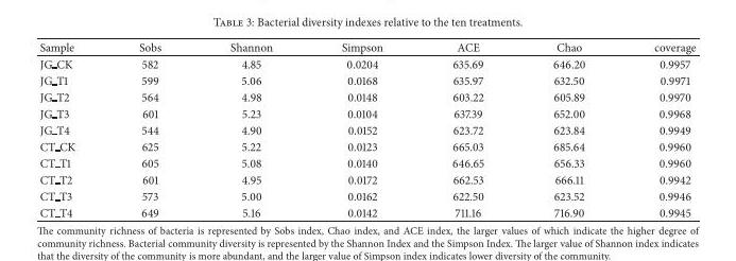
<table><thead><tr><td>Sample</td><td>Sobs</td><td>Shannon</td><td>Simpson</td><td>ACE</td><td>Chao</td><td>coverage</td></tr></thead><tbody><tr><td>JG CK</td><td>582</td><td>4.85</td><td>0.0204</td><td>635.69</td><td>646.20</td><td>0.9957</td></tr><tr><td>JG T1</td><td>599</td><td>5.06</td><td>0.0168</td><td>635.97</td><td>632.50</td><td>0.9971</td></tr><tr><td>JG T2</td><td>564</td><td>4.98</td><td>0.0148</td><td>603.22</td><td>605.89</td><td>0.9970</td></tr><tr><td>JG T3</td><td>601</td><td>5.23</td><td>0.0104</td><td>637.39</td><td>652.00</td><td>0.9968</td></tr><tr><td>JG T4</td><td>544</td><td>4.90</td><td>0.0152</td><td>623.72</td><td>623.84</td><td>0.9949</td></tr><tr><td>CT CK</td><td>625</td><td>5.22</td><td>0.0123</td><td>665.03</td><td>685.64</td><td>0.9960</td></tr><tr><td>CT T1</td><td>605</td><td>5.08</td><td>0.0140</td><td>646.65</td><td>656.33</td><td>0.9960</td></tr><tr><td>CT T2</td><td>601</td><td>4.95</td><td>0.0172</td><td>662.53</td><td>666.11</td><td>0.9942</td></tr><tr><td>CT T3</td><td>573</td><td>5.00</td><td>0.0162</td><td>622.50</td><td>623.52</td><td>0.9946</td></tr><tr><td>CT T4</td><td>649</td><td>5.16</td><td>0.0142</td><td>711.16</td><td>716.90</td><td>0.9945</td></tr></tbody></table>